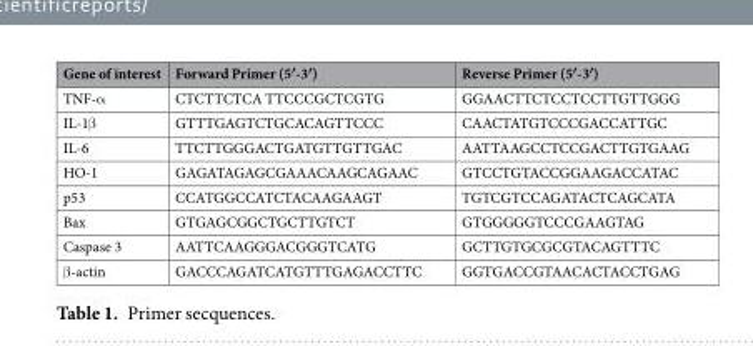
<table><thead><tr><td>Gene of interest</td><td>Forward Primer (5′-3′)</td><td>Reverse Primer (5′-3′)</td></tr></thead><tbody><tr><td>TNF-α</td><td>CTCTTCTCA TTCCCGCTCGTG</td><td>GGAACTTCTCCTCCTTGTTGGG</td></tr><tr><td>IL-1β</td><td>GTTTGAGTCTGCACAGTTCCC</td><td>CAACTATGTCCCGACCATTGC</td></tr><tr><td>IL-6</td><td>TTCTTGGGACTGATGTTGTTGAC</td><td>AATTAAGCCTCCGACTTGTGAAG</td></tr><tr><td>HO-1</td><td>GAGATAGAGCGAAACAAGCAGAAC</td><td>GTCCTGTACCGGAAGACCATAC</td></tr><tr><td>p53</td><td>CCATGGCCATCTACAAGAAGT</td><td>TGTCGTCCAGATACTCAGCATA</td></tr><tr><td>Bax</td><td>GTGAGCGGCTGCTTGTCT</td><td>GTGGGGGTCCCGAAGTAG</td></tr><tr><td>Caspase 3</td><td>AATTCAAGGGACGGGTCATG</td><td>GCTTGTGCGCGTACAGTTTC</td></tr><tr><td>β-actin</td><td>GACCCAGATCATGTTTGAGACCTTC</td><td>GGTGACCGTAACACTACCTGAG</td></tr></tbody></table>